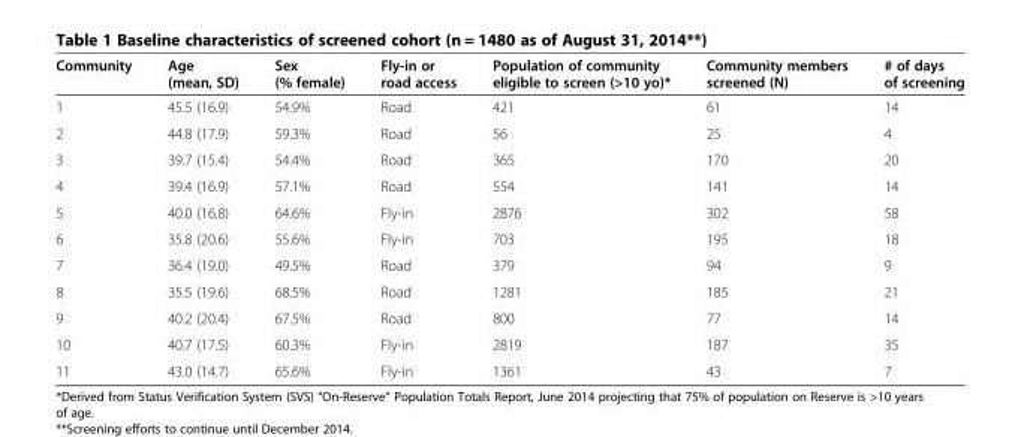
<table><thead><tr><td>Community</td><td>Age (mean, SD)</td><td>Sex (% female)</td><td>Fly-in or road access</td><td>Population of community eligible to screen (&gt;10 yo)*</td><td>Community members screened (N)</td><td># of days of screening</td></tr></thead><tbody><tr><td>1</td><td>45.5 (16.9)</td><td>54.9%</td><td>Road</td><td>421</td><td>61</td><td>14</td></tr><tr><td>2</td><td>44.8 (17.9)</td><td>59.3%</td><td>Road</td><td>56</td><td>25</td><td>4</td></tr><tr><td>3</td><td>39.7 (15.4)</td><td>54.4%</td><td>Road</td><td>365</td><td>170</td><td>20</td></tr><tr><td>4</td><td>39.4 (16.9)</td><td>57.1%</td><td>Road</td><td>554</td><td>141</td><td>14</td></tr><tr><td>5</td><td>40.0 (16.8)</td><td>64.6%</td><td>Fly-in</td><td>2876</td><td>302</td><td>58</td></tr><tr><td>6</td><td>35.8 (20.6)</td><td>55.6%</td><td>Fly-in</td><td>703</td><td>195</td><td>18</td></tr><tr><td>7</td><td>36.4 (19.0)</td><td>49.5%</td><td>Road</td><td>379</td><td>94</td><td>9</td></tr><tr><td>8</td><td>35.5 (19.6)</td><td>68.5%</td><td>Road</td><td>1281</td><td>185</td><td>21</td></tr><tr><td>9</td><td>40.2 (20.4)</td><td>67.5%</td><td>Road</td><td>800</td><td>77</td><td>14</td></tr><tr><td>10</td><td>40.7 (17.5)</td><td>60.3%</td><td>Fly-in</td><td>2819</td><td>187</td><td>35</td></tr><tr><td>11</td><td>43.0 (14.7)</td><td>65.6%</td><td>Fly-in</td><td>1361</td><td>43</td><td>7</td></tr></tbody></table>